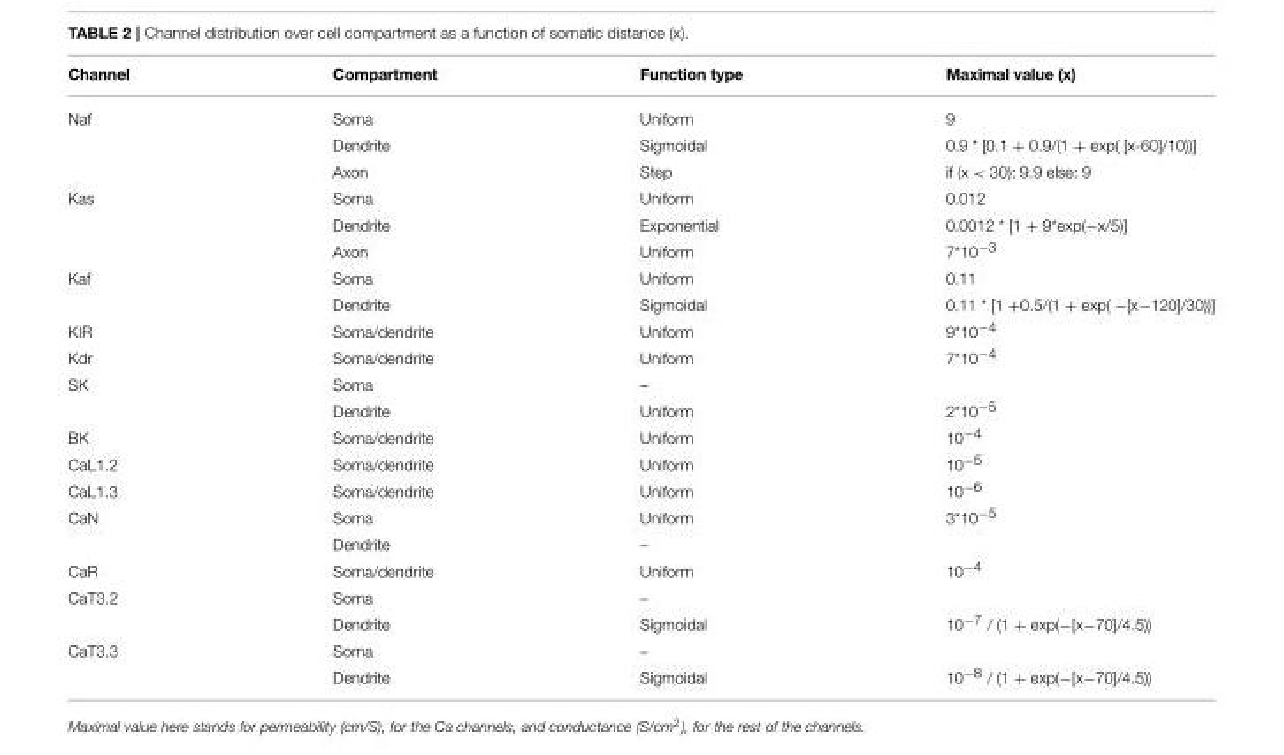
<table><thead><tr><td>Channel</td><td>Compartment</td><td>Function type</td><td>Maximal value (x)</td></tr></thead><tbody><tr><td rowspan="3">Naf</td><td>Soma</td><td>Uniform</td><td>9</td></tr><tr><td>Dendrite</td><td>Sigmoidal</td><td>0.9 * [0.1 + 0.9/(1 + exp( [x-60]/10))]</td></tr><tr><td>Axon</td><td>Step</td><td>if (x &lt; 30): 9.9 else: 9</td></tr><tr><td rowspan="3">Kas</td><td>Soma</td><td>Uniform</td><td>0.012</td></tr><tr><td>Dendrite</td><td>Exponential</td><td>0.0012 * [1 + 9*exp(−x/5)]</td></tr><tr><td>Axon</td><td>Uniform</td><td>7*10<sup>−3</sup></td></tr><tr><td rowspan="2">Kaf</td><td>Soma</td><td>Uniform</td><td>0.11</td></tr><tr><td>Dendrite</td><td>Sigmoidal</td><td>0.11 * [1 +0.5/(1 + exp( −[x−120]/30))]</td></tr><tr><td>KIR</td><td>Soma/dendrite</td><td>Uniform</td><td>9*10<sup>−4</sup></td></tr><tr><td>Kdr</td><td>Soma/dendrite</td><td>Uniform</td><td>7*10<sup>−4</sup></td></tr><tr><td rowspan="2">SK</td><td>Soma</td><td>–</td><td></td></tr><tr><td>Dendrite</td><td>Uniform</td><td>2*10<sup>−5</sup></td></tr><tr><td>BK</td><td>Soma/dendrite</td><td>Uniform</td><td>10<sup>−4</sup></td></tr><tr><td>CaL1.2</td><td>Soma/dendrite</td><td>Uniform</td><td>10<sup>−5</sup></td></tr><tr><td>CaL1.3</td><td>Soma/dendrite</td><td>Uniform</td><td>10<sup>−6</sup></td></tr><tr><td rowspan="2">CaN</td><td>Soma</td><td>Uniform</td><td>3*10<sup>−5</sup></td></tr><tr><td>Dendrite</td><td>–</td><td></td></tr><tr><td>CaR</td><td>Soma/dendrite</td><td>Uniform</td><td>10<sup>−4</sup></td></tr><tr><td rowspan="2">CaT3.2</td><td>Soma</td><td>–</td><td></td></tr><tr><td>Dendrite</td><td>Sigmoidal</td><td>10<sup>−7</sup> / (1 + exp(−[x−70]/4.5))</td></tr><tr><td rowspan="2">CaT3.3</td><td>Soma</td><td>–</td><td></td></tr><tr><td>Dendrite</td><td>Sigmoidal</td><td>10<sup>−8</sup> / (1 + exp(−[x−70]/4.5))</td></tr></tbody></table>